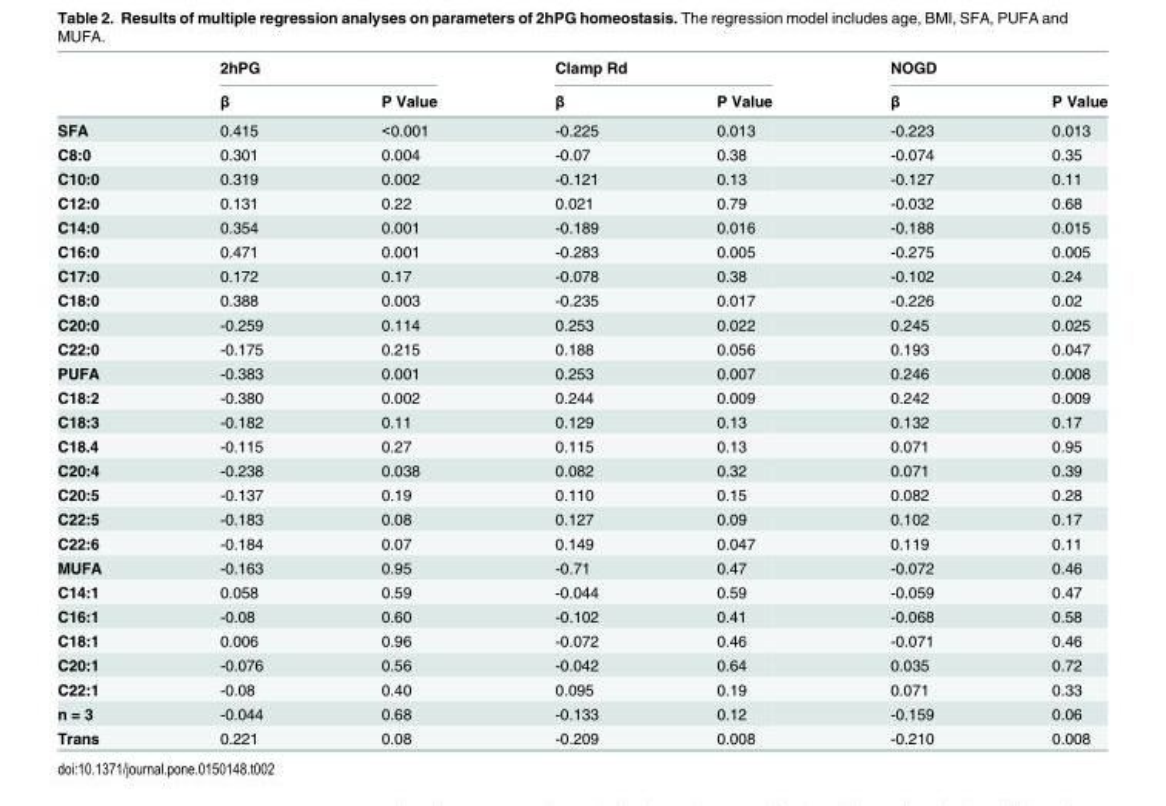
<table><thead><tr><td rowspan="2"></td><td colspan="2">2hPG</td><td colspan="2">Clamp Rd</td><td colspan="2">NOGD</td></tr><tr><td>β</td><td>P Value</td><td>β</td><td>P Value</td><td>β</td><td>P Value</td></tr></thead><tbody><tr><td>SFA</td><td>0.415</td><td>&lt;0.001</td><td>-0.225</td><td>0.013</td><td>-0.223</td><td>0.013</td></tr><tr><td>C8:0</td><td>0.301</td><td>0.004</td><td>-0.07</td><td>0.38</td><td>-0.074</td><td>0.35</td></tr><tr><td>C10:0</td><td>0.319</td><td>0.002</td><td>-0.121</td><td>0.13</td><td>-0.127</td><td>0.11</td></tr><tr><td>C12:0</td><td>0.131</td><td>0.22</td><td>0.021</td><td>0.79</td><td>-0.032</td><td>0.68</td></tr><tr><td>C14:0</td><td>0.354</td><td>0.001</td><td>-0.189</td><td>0.016</td><td>-0.188</td><td>0.015</td></tr><tr><td>C16:0</td><td>0.471</td><td>0.001</td><td>-0.283</td><td>0.005</td><td>-0.275</td><td>0.005</td></tr><tr><td>C17:0</td><td>0.172</td><td>0.17</td><td>-0.078</td><td>0.38</td><td>-0.102</td><td>0.24</td></tr><tr><td>C18:0</td><td>0.388</td><td>0.003</td><td>-0.235</td><td>0.017</td><td>-0.226</td><td>0.02</td></tr><tr><td>C20:0</td><td>-0.259</td><td>0.114</td><td>0.253</td><td>0.022</td><td>0.245</td><td>0.025</td></tr><tr><td>C22:0</td><td>-0.175</td><td>0.215</td><td>0.188</td><td>0.056</td><td>0.193</td><td>0.047</td></tr><tr><td>PUFA</td><td>-0.383</td><td>0.001</td><td>0.253</td><td>0.007</td><td>0.246</td><td>0.008</td></tr><tr><td>C18:2</td><td>-0.380</td><td>0.002</td><td>0.244</td><td>0.009</td><td>0.242</td><td>0.009</td></tr><tr><td>C18:3</td><td>-0.182</td><td>0.11</td><td>0.129</td><td>0.13</td><td>0.132</td><td>0.17</td></tr><tr><td>C18.4</td><td>-0.115</td><td>0.27</td><td>0.115</td><td>0.13</td><td>0.071</td><td>0.95</td></tr><tr><td>C20:4</td><td>-0.238</td><td>0.038</td><td>0.082</td><td>0.32</td><td>0.071</td><td>0.39</td></tr><tr><td>C20:5</td><td>-0.137</td><td>0.19</td><td>0.110</td><td>0.15</td><td>0.082</td><td>0.28</td></tr><tr><td>C22:5</td><td>-0.183</td><td>0.08</td><td>0.127</td><td>0.09</td><td>0.102</td><td>0.17</td></tr><tr><td>C22:6</td><td>-0.184</td><td>0.07</td><td>0.149</td><td>0.047</td><td>0.119</td><td>0.11</td></tr><tr><td>MUFA</td><td>-0.163</td><td>0.95</td><td>-0.71</td><td>0.47</td><td>-0.072</td><td>0.46</td></tr><tr><td>C14:1</td><td>0.058</td><td>0.59</td><td>-0.044</td><td>0.59</td><td>-0.059</td><td>0.47</td></tr><tr><td>C16:1</td><td>-0.08</td><td>0.60</td><td>-0.102</td><td>0.41</td><td>-0.068</td><td>0.58</td></tr><tr><td>C18:1</td><td>0.006</td><td>0.96</td><td>-0.072</td><td>0.46</td><td>-0.071</td><td>0.46</td></tr><tr><td>C20:1</td><td>-0.076</td><td>0.56</td><td>-0.042</td><td>0.64</td><td>0.035</td><td>0.72</td></tr><tr><td>C22:1</td><td>-0.08</td><td>0.40</td><td>0.095</td><td>0.19</td><td>0.071</td><td>0.33</td></tr><tr><td>n = 3</td><td>-0.044</td><td>0.68</td><td>-0.133</td><td>0.12</td><td>-0.159</td><td>0.06</td></tr><tr><td>Trans</td><td>0.221</td><td>0.08</td><td>-0.209</td><td>0.008</td><td>-0.210</td><td>0.008</td></tr></tbody></table>